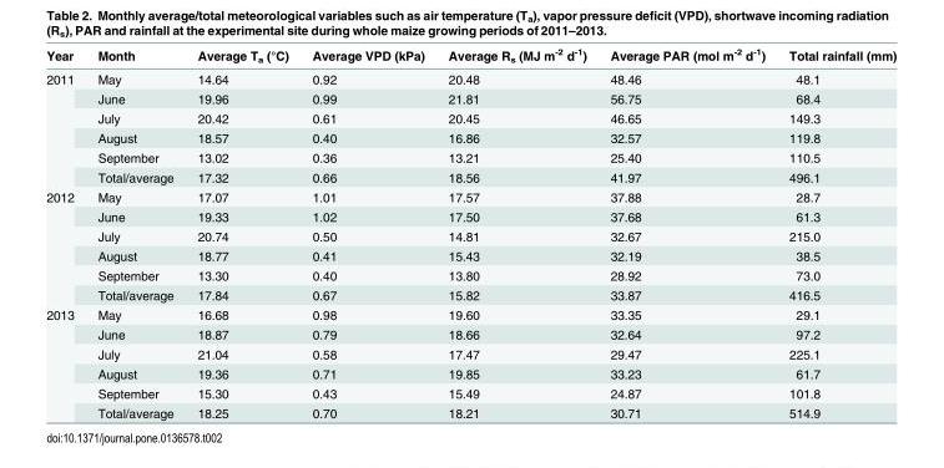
<table><thead><tr><td>Year</td><td>Month</td><td>Average T<sub>a</sub> (°C)</td><td>Average VPD (kPa)</td><td>Average R<sub>s</sub> (MJ m<sup>-2</sup> d<sup>-1</sup>)</td><td>Average PAR (mol m<sup>-2</sup> d<sup>-1</sup>)</td><td>Total rainfall (mm)</td></tr></thead><tbody><tr><td rowspan="6">2011</td><td>May</td><td>14.64</td><td>0.92</td><td>20.48</td><td>48.46</td><td>48.1</td></tr><tr><td>June</td><td>19.96</td><td>0.99</td><td>21.81</td><td>56.75</td><td>68.4</td></tr><tr><td>July</td><td>20.42</td><td>0.61</td><td>20.45</td><td>46.65</td><td>149.3</td></tr><tr><td>August</td><td>18.57</td><td>0.40</td><td>16.86</td><td>32.57</td><td>119.8</td></tr><tr><td>September</td><td>13.02</td><td>0.36</td><td>13.21</td><td>25.40</td><td>110.5</td></tr><tr><td>Total/average</td><td>17.32</td><td>0.66</td><td>18.56</td><td>41.97</td><td>496.1</td></tr><tr><td rowspan="6">2012</td><td>May</td><td>17.07</td><td>1.01</td><td>17.57</td><td>37.88</td><td>28.7</td></tr><tr><td>June</td><td>19.33</td><td>1.02</td><td>17.50</td><td>37.68</td><td>61.3</td></tr><tr><td>July</td><td>20.74</td><td>0.50</td><td>14.81</td><td>32.67</td><td>215.0</td></tr><tr><td>August</td><td>18.77</td><td>0.41</td><td>15.43</td><td>32.19</td><td>38.5</td></tr><tr><td>September</td><td>13.30</td><td>0.40</td><td>13.80</td><td>28.92</td><td>73.0</td></tr><tr><td>Total/average</td><td>17.84</td><td>0.67</td><td>15.82</td><td>33.87</td><td>416.5</td></tr><tr><td rowspan="6">2013</td><td>May</td><td>16.68</td><td>0.98</td><td>19.60</td><td>33.35</td><td>29.1</td></tr><tr><td>June</td><td>18.87</td><td>0.79</td><td>18.66</td><td>32.64</td><td>97.2</td></tr><tr><td>July</td><td>21.04</td><td>0.58</td><td>17.47</td><td>29.47</td><td>225.1</td></tr><tr><td>August</td><td>19.36</td><td>0.71</td><td>19.85</td><td>33.23</td><td>61.7</td></tr><tr><td>September</td><td>15.30</td><td>0.43</td><td>15.49</td><td>24.87</td><td>101.8</td></tr><tr><td>Total/average</td><td>18.25</td><td>0.70</td><td>18.21</td><td>30.71</td><td>514.9</td></tr></tbody></table>